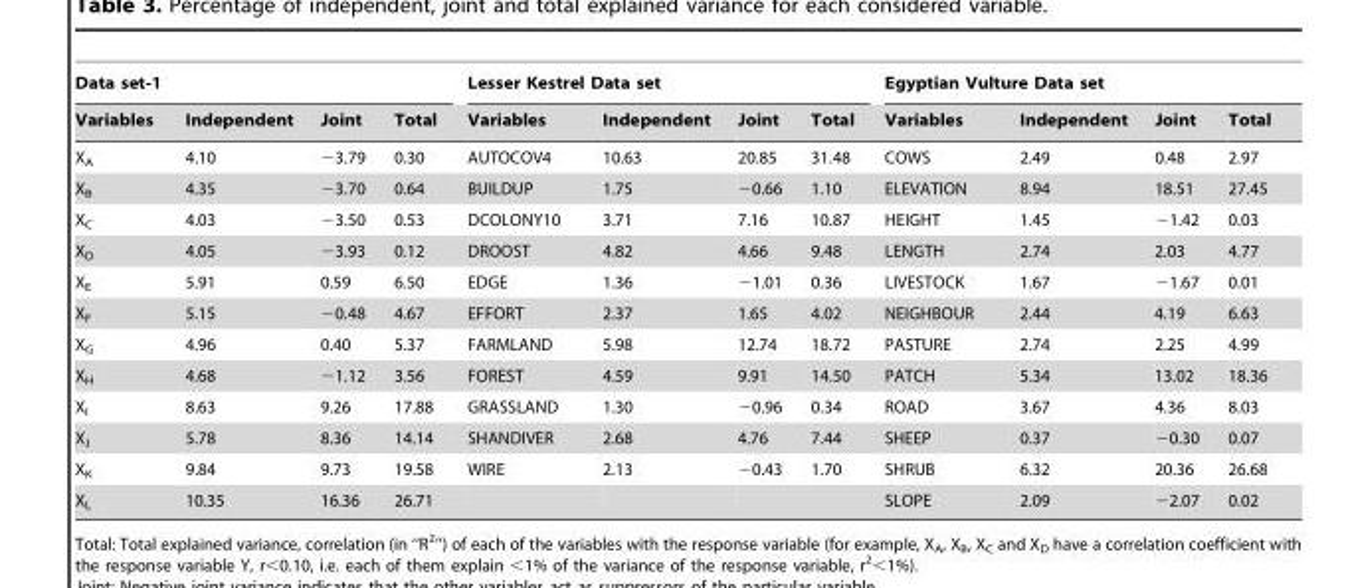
<table><thead><tr><td colspan="4">Data set-1</td><td colspan="4">Lesser Kestrel Data set</td><td colspan="4">Egyptian Vulture Data set</td></tr><tr><td>Variables</td><td>Independent</td><td>Joint</td><td>Total</td><td>Variables</td><td>Independent</td><td>Joint</td><td>Total</td><td>Variables</td><td>Independent</td><td>Joint</td><td>Total</td></tr></thead><tbody><tr><td>X<sub>A</sub></td><td>4.10</td><td>−3.79</td><td>0.30</td><td>AUTOCOV4</td><td>10.63</td><td>20.85</td><td>31.48</td><td>COWS</td><td>2.49</td><td>0.48</td><td>2.97</td></tr><tr><td>X<sub>B</sub></td><td>4.35</td><td>−3.70</td><td>0.64</td><td>BUILDUP</td><td>1.75</td><td>−0.66</td><td>1.10</td><td>ELEVATION</td><td>8.94</td><td>18.51</td><td>27.45</td></tr><tr><td>X<sub>C</sub></td><td>4.03</td><td>−3.50</td><td>0.53</td><td>DCOLONY10</td><td>3.71</td><td>7.16</td><td>10.87</td><td>HEIGHT</td><td>1.45</td><td>−1.42</td><td>0.03</td></tr><tr><td>X<sub>D</sub></td><td>4.05</td><td>−3.93</td><td>0.12</td><td>DROOST</td><td>4.82</td><td>4.66</td><td>9.48</td><td>LENGTH</td><td>2.74</td><td>2.03</td><td>4.77</td></tr><tr><td>X<sub>E</sub></td><td>5.91</td><td>0.59</td><td>6.50</td><td>EDGE</td><td>1.36</td><td>−1.01</td><td>0.36</td><td>LIVESTOCK</td><td>1.67</td><td>−1.67</td><td>0.01</td></tr><tr><td>X<sub>F</sub></td><td>5.15</td><td>−0.48</td><td>4.67</td><td>EFFORT</td><td>2.37</td><td>1.65</td><td>4.02</td><td>NEIGHBOUR</td><td>2.44</td><td>4.19</td><td>6.63</td></tr><tr><td>X<sub>G</sub></td><td>4.96</td><td>0.40</td><td>5.37</td><td>FARMLAND</td><td>5.98</td><td>12.74</td><td>18.72</td><td>PASTURE</td><td>2.74</td><td>2.25</td><td>4.99</td></tr><tr><td>X<sub>H</sub></td><td>4.68</td><td>−1.12</td><td>3.56</td><td>FOREST</td><td>4.59</td><td>9.91</td><td>14.50</td><td>PATCH</td><td>5.34</td><td>13.02</td><td>18.36</td></tr><tr><td>X<sub>I</sub></td><td>8.63</td><td>9.26</td><td>17.88</td><td>GRASSLAND</td><td>1.30</td><td>−0.96</td><td>0.34</td><td>ROAD</td><td>3.67</td><td>4.36</td><td>8.03</td></tr><tr><td>X<sub>J</sub></td><td>5.78</td><td>8.36</td><td>14.14</td><td>SHANDIVER</td><td>2.68</td><td>4.76</td><td>7.44</td><td>SHEEP</td><td>0.37</td><td>−0.30</td><td>0.07</td></tr><tr><td>X<sub>K</sub></td><td>9.84</td><td>9.73</td><td>19.58</td><td>WIRE</td><td>2.13</td><td>−0.43</td><td>1.70</td><td>SHRUB</td><td>6.32</td><td>20.36</td><td>26.68</td></tr><tr><td>X<sub>L</sub></td><td>10.35</td><td>16.36</td><td>26.71</td><td></td><td></td><td></td><td></td><td>SLOPE</td><td>2.09</td><td>−2.07</td><td>0.02</td></tr></tbody></table>